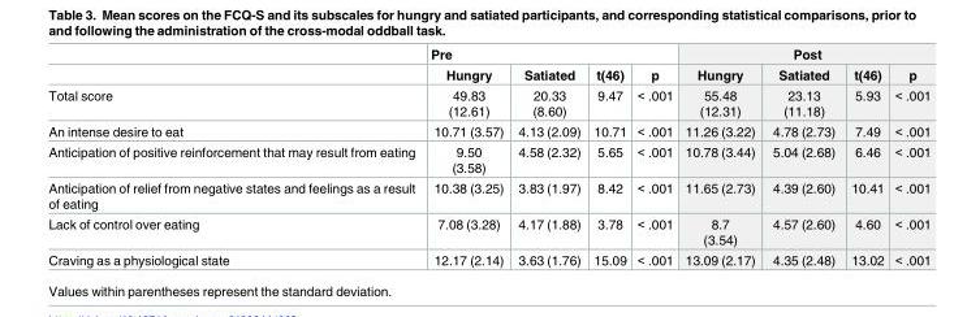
<table><thead><tr><td rowspan="2"></td><td colspan="4">Pre</td><td colspan="4">Post</td></tr><tr><td>Hungry</td><td>Satiated</td><td>t(46)</td><td>p</td><td>Hungry</td><td>Satiated</td><td>t(46)</td><td>p</td></tr></thead><tbody><tr><td>Total score</td><td>49.83 (12.61)</td><td>20.33 (8.60)</td><td>9.47</td><td>&lt; .001</td><td>55.48 (12.31)</td><td>23.13 (11.18)</td><td>5.93</td><td>&lt; .001</td></tr><tr><td>An intense desire to eat</td><td>10.71 (3.57)</td><td>4.13 (2.09)</td><td>10.71</td><td>&lt; .001</td><td>11.26 (3.22)</td><td>4.78 (2.73)</td><td>7.49</td><td>&lt; .001</td></tr><tr><td>Anticipation of positive reinforcement that may result from eating</td><td>9.50 (3.58)</td><td>4.58 (2.32)</td><td>5.65</td><td>&lt; .001</td><td>10.78 (3.44)</td><td>5.04 (2.68)</td><td>6.46</td><td>&lt; .001</td></tr><tr><td>Anticipation of relief from negative states and feelings as a result of eating</td><td>10.38 (3.25)</td><td>3.83 (1.97)</td><td>8.42</td><td>&lt; .001</td><td>11.65 (2.73)</td><td>4.39 (2.60)</td><td>10.41</td><td>&lt; .001</td></tr><tr><td>Lack of control over eating</td><td>7.08 (3.28)</td><td>4.17 (1.88)</td><td>3.78</td><td>&lt; .001</td><td>8.7 (3.54)</td><td>4.57 (2.60)</td><td>4.60</td><td>&lt; .001</td></tr><tr><td>Craving as a physiological state</td><td>12.17 (2.14)</td><td>3.63 (1.76)</td><td>15.09</td><td>&lt; .001</td><td>13.09 (2.17)</td><td>4.35 (2.48)</td><td>13.02</td><td>&lt; .001</td></tr></tbody></table>